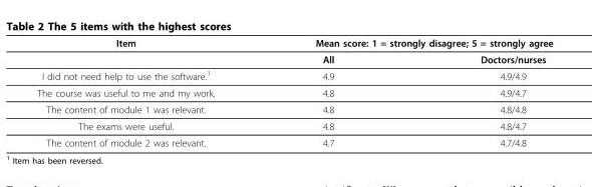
<table><thead><tr><td rowspan="2">Item</td><td colspan="2">Mean score: 1 = strongly disagree; 5 = strongly agree</td></tr><tr><td>All</td><td>Doctors/nurses</td></tr></thead><tbody><tr><td>I did not need help to use the software.<sup>1</sup></td><td>4.9</td><td>4.9/4.9</td></tr><tr><td>The course was useful to me and my work.</td><td>4.8</td><td>4.9/4.7</td></tr><tr><td>The content of module 1 was relevant.</td><td>4.8</td><td>4.8/4.8</td></tr><tr><td>The exams were useful.</td><td>4.8</td><td>4.8/4.7</td></tr><tr><td>The content of module 2 was relevant.</td><td>4.7</td><td>4.7/4.8</td></tr></tbody></table>